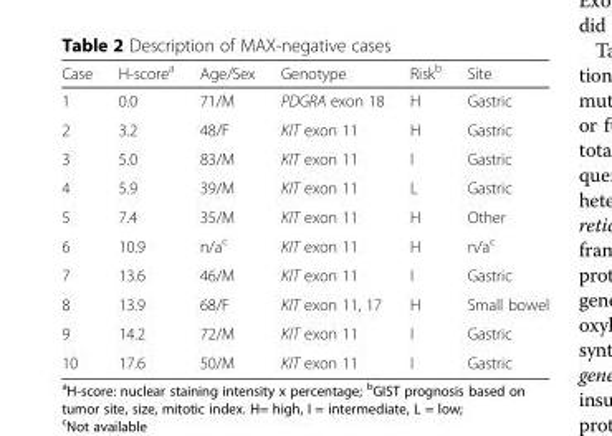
<table><thead><tr><td>Case</td><td>H-score<sup>a</sup></td><td>Age/Sex</td><td>Genotype</td><td>Risk<sup>b</sup></td><td>Site</td></tr></thead><tbody><tr><td>1</td><td>0.0</td><td>71/M</td><td>PDGRA exon 18</td><td>H</td><td>Gastric</td></tr><tr><td>2</td><td>3.2</td><td>48/F</td><td>KIT exon 11</td><td>H</td><td>Gastric</td></tr><tr><td>3</td><td>5.0</td><td>83/M</td><td>KIT exon 11</td><td>I</td><td>Gastric</td></tr><tr><td>4</td><td>5.9</td><td>39/M</td><td>KIT exon 11</td><td>L</td><td>Gastric</td></tr><tr><td>5</td><td>7.4</td><td>35/M</td><td>KIT exon 11</td><td>H</td><td>Other</td></tr><tr><td>6</td><td>10.9</td><td>n/a<sup>c</sup></td><td>KIT exon 11</td><td>H</td><td>n/a<sup>c</sup></td></tr><tr><td>7</td><td>13.6</td><td>46/M</td><td>KIT exon 11</td><td>I</td><td>Gastric</td></tr><tr><td>8</td><td>13.9</td><td>68/F</td><td>KIT exon 11, 17</td><td>H</td><td>Small bowel</td></tr><tr><td>9</td><td>14.2</td><td>72/M</td><td>KIT exon 11</td><td>I</td><td>Gastric</td></tr><tr><td>10</td><td>17.6</td><td>50/M</td><td>KIT exon 11</td><td>I</td><td>Gastric</td></tr></tbody></table>